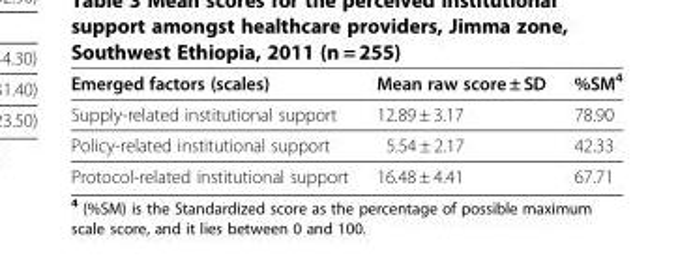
<table><thead><tr><td>Emerged factors (scales)</td><td>Mean raw score ± SD</td><td>%SM<sup>4</sup></td></tr></thead><tbody><tr><td>Supply-related institutional support</td><td>12.89 ± 3.17</td><td>78.90</td></tr><tr><td>Policy-related institutional support</td><td>5.54 ± 2.17</td><td>42.33</td></tr><tr><td>Protocol-related institutional support</td><td>16.48 ± 4.41</td><td>67.71</td></tr></tbody></table>